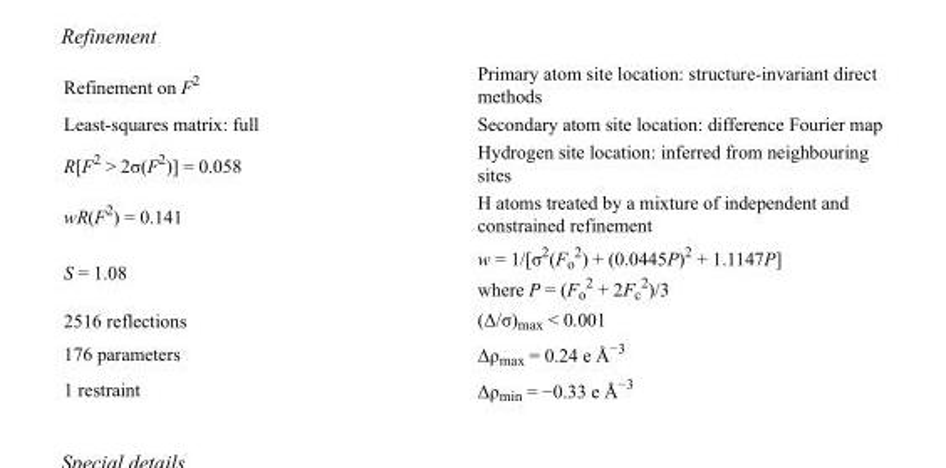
<table><tbody><tr><td>Refinement on F<sup>2</sup></td><td>Primary atom site location: structure-invariant direct methods</td></tr><tr><td>Least-squares matrix: full</td><td>Secondary atom site location: difference Fourier map</td></tr><tr><td>R[F<sup>2</sup> &gt; 2σ(F<sup>2</sup>)] = 0.058</td><td>Hydrogen site location: inferred from neighbouring sites</td></tr><tr><td>wR(F<sup>2</sup>) = 0.141</td><td>H atoms treated by a mixture of independent and constrained refinement</td></tr><tr><td>S = 1.08</td><td>w = 1/[σ<sup>2</sup>(F<sub>o</sub> <sup>2</sup>) + (0.0445P)<sup>2</sup> + 1.1147P] where P = (F<sub>o</sub> <sup>2</sup> + 2F<sub>c</sub> <sup>2</sup>)/3</td></tr><tr><td>2516 reflections</td><td>(Δ/σ)<sub>max</sub> &lt; 0.001</td></tr><tr><td>176 parameters</td><td>Δρ<sub>max</sub> = 0.24 e Å<sup>−3</sup></td></tr><tr><td>1 restraint</td><td>Δρ<sub>min</sub> = −0.33 e Å<sup>−3</sup></td></tr></tbody></table>